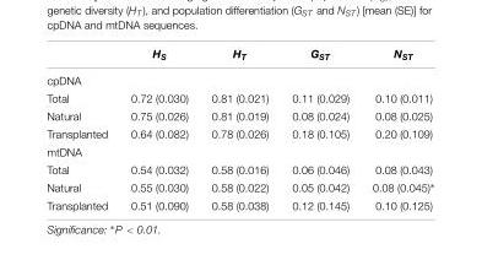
<table><thead><tr><td></td><td>H<sub>S</sub></td><td>H<sub>T</sub></td><td>G<sub>ST</sub></td><td>N<sub>ST</sub></td></tr></thead><tbody><tr><td colspan="5">cpDNA</td></tr><tr><td>Total</td><td>0.72 (0.030)</td><td>0.81 (0.021)</td><td>0.11 (0.029)</td><td>0.10 (0.011)</td></tr><tr><td>Natural</td><td>0.75 (0.026)</td><td>0.81 (0.019)</td><td>0.08 (0.024)</td><td>0.08 (0.025)</td></tr><tr><td>Transplanted</td><td>0.64 (0.082)</td><td>0.78 (0.026)</td><td>0.18 (0.105)</td><td>0.20 (0.109)</td></tr><tr><td colspan="5">mtDNA</td></tr><tr><td>Total</td><td>0.54 (0.032)</td><td>0.58 (0.016)</td><td>0.06 (0.046)</td><td>0.08 (0.043)</td></tr><tr><td>Natural</td><td>0.55 (0.030)</td><td>0.58 (0.022)</td><td>0.05 (0.042)</td><td>0.08 (0.045)∗</td></tr><tr><td>Transplanted</td><td>0.51 (0.090)</td><td>0.58 (0.038)</td><td>0.12 (0.145)</td><td>0.10 (0.125)</td></tr></tbody></table>